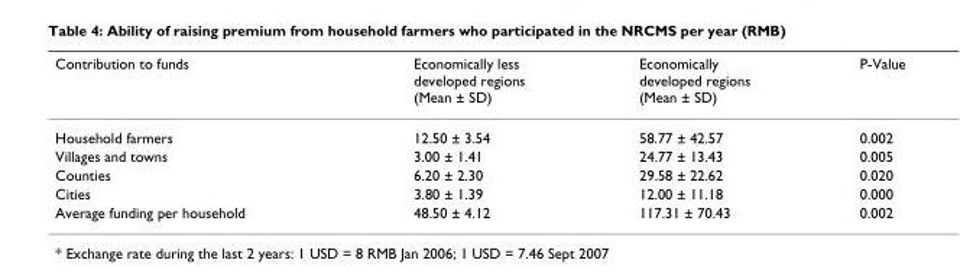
<table><thead><tr><td>Contribution to funds</td><td>Economically less developed regions (Mean ± SD)</td><td>Economically developed regions (Mean ± SD)</td><td>P-Value</td></tr></thead><tbody><tr><td>Household farmers</td><td>12.50 ± 3.54</td><td>58.77 ± 42.57</td><td>0.002</td></tr><tr><td>Villages and towns</td><td>3.00 ± 1.41</td><td>24.77 ± 13.43</td><td>0.005</td></tr><tr><td>Counties</td><td>6.20 ± 2.30</td><td>29.58 ± 22.62</td><td>0.020</td></tr><tr><td>Cities</td><td>3.80 ± 1.39</td><td>12.00 ± 11.18</td><td>0.000</td></tr><tr><td>Average funding per household</td><td>48.50 ± 4.12</td><td>117.31 ± 70.43</td><td>0.002</td></tr></tbody></table>